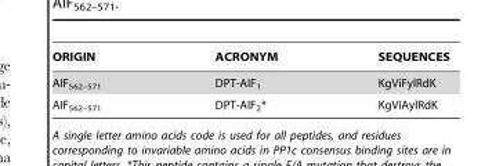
<table><thead><tr><td>ORIGIN</td><td>ACRONYM</td><td>SEQUENCES</td></tr></thead><tbody><tr><td>AIF<sub>562–571</sub></td><td>DPT-AIF<sub>1</sub></td><td>KgViFylRdK</td></tr><tr><td>AIF<sub>562–571</sub></td><td>DPT-AIF<sub>2</sub>*</td><td>KgViAylRdK</td></tr></tbody></table>